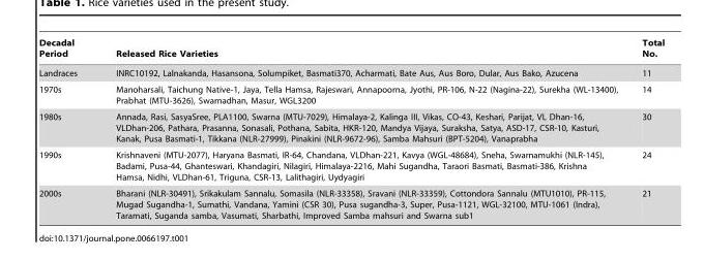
<table><thead><tr><td>Decadal Period</td><td>Released Rice Varieties</td><td>Total No.</td></tr></thead><tbody><tr><td>Landraces</td><td>INRC10192, Lalnakanda, Hasansona, Solumpiket, Basmati370, Acharmati, Bate Aus, Aus Boro, Dular, Aus Bako, Azucena</td><td>11</td></tr><tr><td>1970s</td><td>Manoharsali, Taichung Native-1, Jaya, Tella Hamsa, Rajeswari, Annapoorna, Jyothi, PR-106, N-22 (Nagina-22), Surekha (WL-13400), Prabhat (MTU-3626), Swarnadhan, Masur, WGL3200</td><td>14</td></tr><tr><td>1980s</td><td>Annada, Rasi, SasyaSree, PLA1100, Swarna (MTU-7029), Himalaya-2, Kalinga III, Vikas, CO-43, Keshari, Parijat, VL Dhan-16, VLDhan-206, Pathara, Prasanna, Sonasali, Pothana, Sabita, HKR-120, Mandya Vijaya, Suraksha, Satya, ASD-17, CSR-10, Kasturi, Kanak, Pusa Basmati-1, Tikkana (NLR-27999), Pinakini (NLR-9672-96), Samba Mahsuri (BPT-5204), Vanaprabha</td><td>30</td></tr><tr><td>1990s</td><td>Krishnaveni (MTU-2077), Haryana Basmati, IR-64, Chandana, VLDhan-221, Kavya (WGL-48684), Sneha, Swarnamukhi (NLR-145), Badami, Pusa-44, Ghanteswari, Khandagiri, Nilagiri, Himalaya-2216, Mahi Sugandha, Taraori Basmati, Basmati-386, Krishna Hamsa, Nidhi, VLDhan-61, Triguna, CSR-13, Lalithagiri, Uydyagiri</td><td>24</td></tr><tr><td>2000s</td><td>Bharani (NLR-30491), Srikakulam Sannalu, Somasila (NLR-33358), Sravani (NLR-33359), Cottondora Sannalu (MTU1010), PR-115, Mugad Sugandha-1, Sumathi, Vandana, Yamini (CSR 30), Pusa sugandha-3, Super, Pusa-1121, WGL-32100, MTU-1061 (Indra), Taramati, Suganda samba, Vasumati, Sharbathi, Improved Samba mahsuri and Swarna sub1</td><td>21</td></tr></tbody></table>